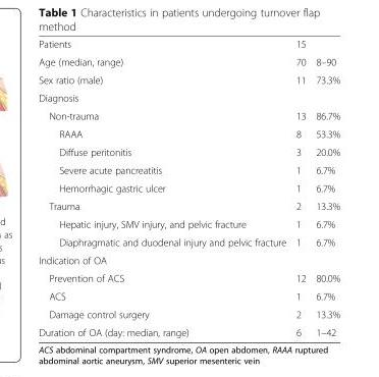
<table><tbody><tr><td>Patients</td><td>15</td><td></td></tr><tr><td>Age (median, range)</td><td>70</td><td>8–90</td></tr><tr><td>Sex ratio (male)</td><td>11</td><td>73.3%</td></tr><tr><td colspan="3">Diagnosis</td></tr><tr><td>Non-trauma</td><td>13</td><td>86.7%</td></tr><tr><td>RAAA</td><td>8</td><td>53.3%</td></tr><tr><td>Diffuse peritonitis</td><td>3</td><td>20.0%</td></tr><tr><td>Severe acute pancreatitis</td><td>1</td><td>6.7%</td></tr><tr><td>Hemorrhagic gastric ulcer</td><td>1</td><td>6.7%</td></tr><tr><td>Trauma</td><td>2</td><td>13.3%</td></tr><tr><td>Hepatic injury, SMV injury, and pelvic fracture</td><td>1</td><td>6.7%</td></tr><tr><td>Diaphragmatic and duodenal injury and pelvic fracture</td><td>1</td><td>6.7%</td></tr><tr><td colspan="3">Indication of OA</td></tr><tr><td>Prevention of ACS</td><td>12</td><td>80.0%</td></tr><tr><td>ACS</td><td>1</td><td>6.7%</td></tr><tr><td>Damage control surgery</td><td>2</td><td>13.3%</td></tr><tr><td>Duration of OA (day: median, range)</td><td>6</td><td>1–42</td></tr></tbody></table>